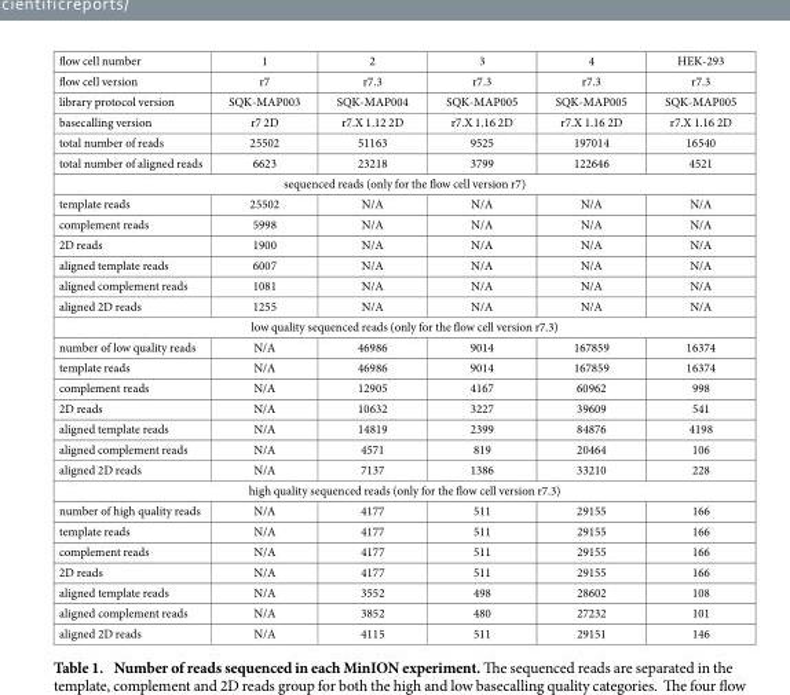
<table><tbody><tr><td>flow cell number</td><td>1</td><td>2</td><td>3</td><td>4</td><td>HEK-293</td></tr><tr><td>flow cell version</td><td>r7</td><td>r7.3</td><td>r7.3</td><td>r7.3</td><td>r7.3</td></tr><tr><td>library protocol version</td><td>SQK-MAP003</td><td>SQK-MAP004</td><td>SQK-MAP005</td><td>SQK-MAP005</td><td>SQK-MAP005</td></tr><tr><td>basecalling version</td><td>r7 2D</td><td>r7.X 1.12 2D</td><td>r7.X 1.16 2D</td><td>r7.X 1.16 2D</td><td>r7.X 1.16 2D</td></tr><tr><td>total number of reads</td><td>25502</td><td>51163</td><td>9525</td><td>197014</td><td>16540</td></tr><tr><td>total number of aligned reads</td><td>6623</td><td>23218</td><td>3799</td><td>122646</td><td>4521</td></tr><tr><td colspan="6">sequenced reads (only for the flow cell version r7)</td></tr><tr><td>template reads</td><td>25502</td><td>N/A</td><td>N/A</td><td>N/A</td><td>N/A</td></tr><tr><td>complement reads</td><td>5998</td><td>N/A</td><td>N/A</td><td>N/A</td><td>N/A</td></tr><tr><td>2D reads</td><td>1900</td><td>N/A</td><td>N/A</td><td>N/A</td><td>N/A</td></tr><tr><td>aligned template reads</td><td>6007</td><td>N/A</td><td>N/A</td><td>N/A</td><td>N/A</td></tr><tr><td>aligned complement reads</td><td>1081</td><td>N/A</td><td>N/A</td><td>N/A</td><td>N/A</td></tr><tr><td>aligned 2D reads</td><td>1255</td><td>N/A</td><td>N/A</td><td>N/A</td><td>N/A</td></tr><tr><td colspan="6">low quality sequenced reads (only for the flow cell version r7.3)</td></tr><tr><td>number of low quality reads</td><td>N/A</td><td>46986</td><td>9014</td><td>167859</td><td>16374</td></tr><tr><td>template reads</td><td>N/A</td><td>46986</td><td>9014</td><td>167859</td><td>16374</td></tr><tr><td>complement reads</td><td>N/A</td><td>12905</td><td>4167</td><td>60962</td><td>998</td></tr><tr><td>2D reads</td><td>N/A</td><td>10632</td><td>3227</td><td>39609</td><td>541</td></tr><tr><td>aligned template reads</td><td>N/A</td><td>14819</td><td>2399</td><td>84876</td><td>4198</td></tr><tr><td>aligned complement reads</td><td>N/A</td><td>4571</td><td>819</td><td>20464</td><td>106</td></tr><tr><td>aligned 2D reads</td><td>N/A</td><td>7137</td><td>1386</td><td>33210</td><td>228</td></tr><tr><td colspan="6">high quality sequenced reads (only for the flow cell version r7.3)</td></tr><tr><td>number of high quality reads</td><td>N/A</td><td>4177</td><td>511</td><td>29155</td><td>166</td></tr><tr><td>template reads</td><td>N/A</td><td>4177</td><td>511</td><td>29155</td><td>166</td></tr><tr><td>complement reads</td><td>N/A</td><td>4177</td><td>511</td><td>29155</td><td>166</td></tr><tr><td>2D reads</td><td>N/A</td><td>4177</td><td>511</td><td>29155</td><td>166</td></tr><tr><td>aligned template reads</td><td>N/A</td><td>3552</td><td>498</td><td>28602</td><td>108</td></tr><tr><td>aligned complement reads</td><td>N/A</td><td>3852</td><td>480</td><td>27232</td><td>101</td></tr><tr><td>aligned 2D reads</td><td>N/A</td><td>4115</td><td>511</td><td>29151</td><td>146</td></tr></tbody></table>